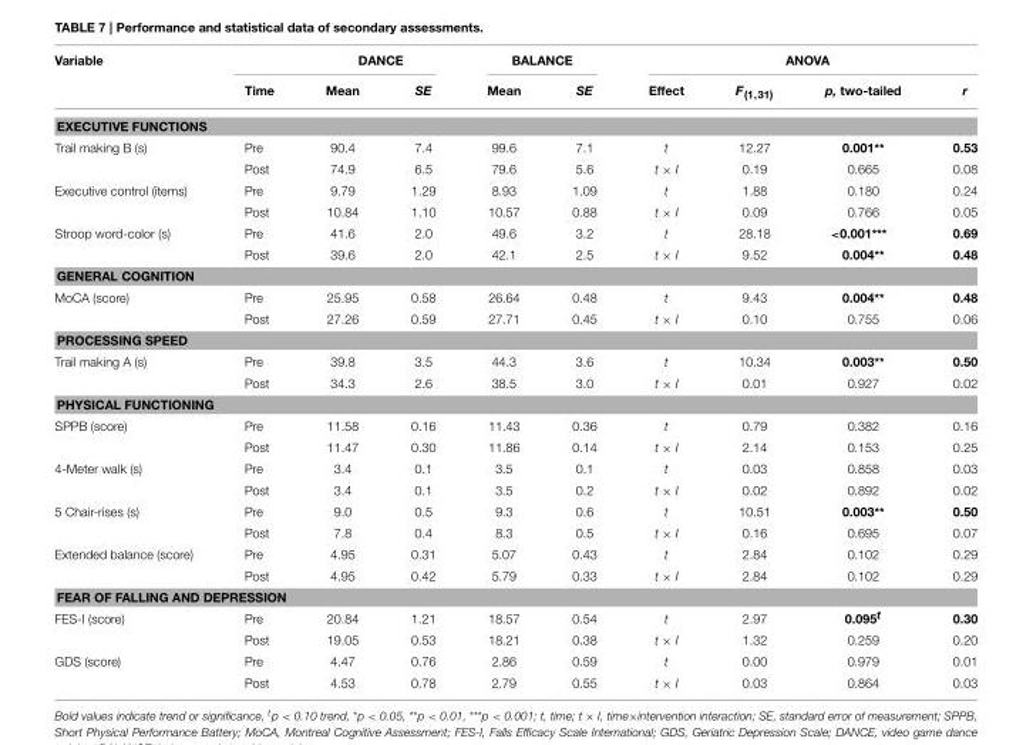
<table><thead><tr><td rowspan="2">Variable</td><td rowspan="2">Time</td><td colspan="2">DANCE</td><td colspan="2">BALANCE</td><td colspan="4">ANOVA</td></tr><tr><td>Mean</td><td>SE</td><td>Mean</td><td>SE</td><td>Effect</td><td>F<sub>(1,31)</sub></td><td>p, two-tailed</td><td>r</td></tr></thead><tbody><tr><td colspan="10">EXECUTIVE FUNCTIONS</td></tr><tr><td rowspan="2">Trail making B (s)</td><td>Pre</td><td>90.4</td><td>7.4</td><td>99.6</td><td>7.1</td><td><sup>t</sup></td><td>12.27</td><td>0.001**</td><td>0.53</td></tr><tr><td>Post</td><td>74.9</td><td>6.5</td><td>79.6</td><td>5.6</td><td>t × I</td><td>0.19</td><td>0.665</td><td>0.08</td></tr><tr><td rowspan="2">Executive control (items)</td><td>Pre</td><td>9.79</td><td>1.29</td><td>8.93</td><td>1.09</td><td>t</td><td>1.88</td><td>0.180</td><td>0.24</td></tr><tr><td>Post</td><td>10.84</td><td>1.10</td><td>10.57</td><td>0.88</td><td>t × I</td><td>0.09</td><td>0.766</td><td>0.05</td></tr><tr><td rowspan="2">Stroop word-color (s)</td><td>Pre</td><td>41.6</td><td>2.0</td><td>49.6</td><td>3.2</td><td>t</td><td>28.18</td><td>&lt;0.001***</td><td>0.69</td></tr><tr><td>Post</td><td>39.6</td><td>2.0</td><td>42.1</td><td>2.5</td><td>t × I</td><td>9.52</td><td>0.004**</td><td>0.48</td></tr><tr><td colspan="10">GENERAL COGNITION</td></tr><tr><td rowspan="2">MoCA (score)</td><td>Pre</td><td>25.95</td><td>0.58</td><td>26.64</td><td>0.48</td><td>t</td><td>9.43</td><td>0.004**</td><td>0.48</td></tr><tr><td>Post</td><td>27.26</td><td>0.59</td><td>27.71</td><td>0.45</td><td>t × I</td><td>0.10</td><td>0.755</td><td>0.06</td></tr><tr><td colspan="10">PROCESSING SPEED</td></tr><tr><td rowspan="2">Trail making A (s)</td><td>Pre</td><td>39.8</td><td>3.5</td><td>44.3</td><td>3.6</td><td>t</td><td>10.34</td><td>0.003**</td><td>0.50</td></tr><tr><td>Post</td><td>34.3</td><td>2.6</td><td>38.5</td><td>3.0</td><td>t × I</td><td>0.01</td><td>0.927</td><td>0.02</td></tr><tr><td colspan="10">PHYSICAL FUNCTIONING</td></tr><tr><td rowspan="2">SPPB (score)</td><td>Pre</td><td>11.58</td><td>0.16</td><td>11.43</td><td>0.36</td><td>t</td><td>0.79</td><td>0.382</td><td>0.16</td></tr><tr><td>Post</td><td>11.47</td><td>0.30</td><td>11.86</td><td>0.14</td><td>t × I</td><td>2.14</td><td>0.153</td><td>0.25</td></tr><tr><td rowspan="2">4-Meter walk (s)</td><td>Pre</td><td>3.4</td><td>0.1</td><td>3.5</td><td>0.1</td><td>t</td><td>0.03</td><td>0.858</td><td>0.03</td></tr><tr><td>Post</td><td>3.4</td><td>0.1</td><td>3.5</td><td>0.2</td><td>t × I</td><td>0.02</td><td>0.892</td><td>0.02</td></tr><tr><td rowspan="2">5 Chair-rises (s)</td><td>Pre</td><td>9.0</td><td>0.5</td><td>9.3</td><td>0.6</td><td>t</td><td>10.51</td><td>0.003**</td><td>0.50</td></tr><tr><td>Post</td><td>7.8</td><td>0.4</td><td>8.3</td><td>0.5</td><td>t × I</td><td>0.16</td><td>0.695</td><td>0.07</td></tr><tr><td rowspan="2">Extended balance (score)</td><td>Pre</td><td>4.95</td><td>0.31</td><td>5.07</td><td>0.43</td><td>t</td><td>2.84</td><td>0.102</td><td>0.29</td></tr><tr><td>Post</td><td>4.95</td><td>0.42</td><td>5.79</td><td>0.33</td><td>t × I</td><td>2.84</td><td>0.102</td><td>0.29</td></tr><tr><td colspan="10">FEAR OF FALLING AND DEPRESSION</td></tr><tr><td rowspan="2">FES-I (score)</td><td>Pre</td><td>20.84</td><td>1.21</td><td>18.57</td><td>0.54</td><td>t</td><td>2.97</td><td>0.095<sup>t</sup></td><td>0.30</td></tr><tr><td>Post</td><td>19.05</td><td>0.53</td><td>18.21</td><td>0.38</td><td>t × I</td><td>1.32</td><td>0.259</td><td>0.20</td></tr><tr><td rowspan="2">GDS (score)</td><td>Pre</td><td>4.47</td><td>0.76</td><td>2.86</td><td>0.59</td><td>t</td><td>0.00</td><td>0.979</td><td>0.01</td></tr><tr><td>Post</td><td>4.53</td><td>0.78</td><td>2.79</td><td>0.55</td><td>t × I</td><td>0.03</td><td>0.864</td><td>0.03</td></tr></tbody></table>